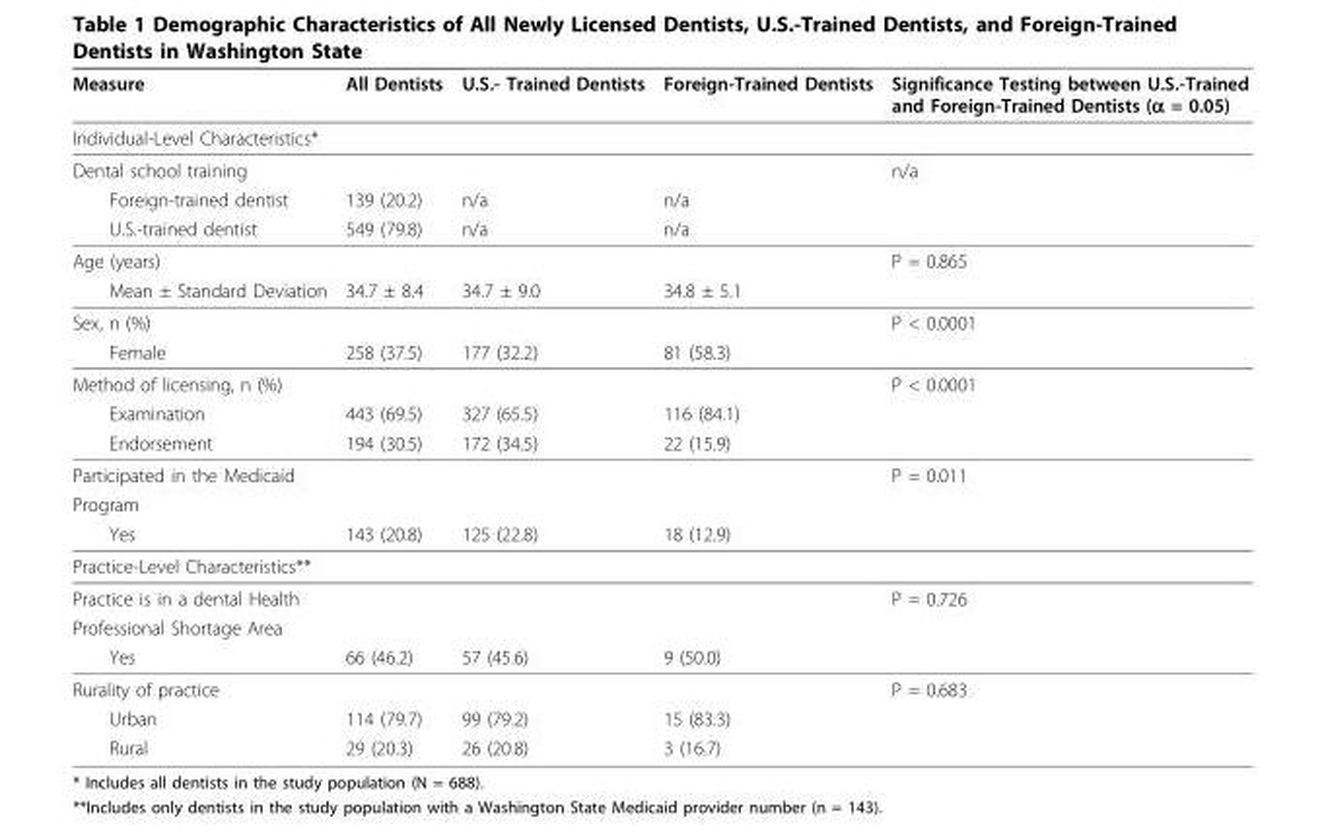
<table><thead><tr><td>Measure</td><td>All Dentists</td><td>U.S.- Trained Dentists</td><td>Foreign-Trained Dentists</td><td>Significance Testing between U.S.-Trained and Foreign-Trained Dentists (α = 0.05)</td></tr></thead><tbody><tr><td colspan="5">Individual-Level Characteristics*</td></tr><tr><td>Dental school training</td><td></td><td></td><td></td><td>n/a</td></tr><tr><td>Foreign-trained dentist</td><td>139 (20.2)</td><td>n/a</td><td>n/a</td><td></td></tr><tr><td>U.S.-trained dentist</td><td>549 (79.8)</td><td>n/a</td><td>n/a</td><td></td></tr><tr><td>Age (years)</td><td></td><td></td><td></td><td>P = 0.865</td></tr><tr><td>Mean ± Standard Deviation</td><td>34.7 ± 8.4</td><td>34.7 ± 9.0</td><td>34.8 ± 5.1</td><td></td></tr><tr><td>Sex, n (%)</td><td></td><td></td><td></td><td>P &lt; 0.0001</td></tr><tr><td>Female</td><td>258 (37.5)</td><td>177 (32.2)</td><td>81 (58.3)</td><td></td></tr><tr><td>Method of licensing, n (%)</td><td></td><td></td><td></td><td>P &lt; 0.0001</td></tr><tr><td>Examination</td><td>443 (69.5)</td><td>327 (65.5)</td><td>116 (84.1)</td><td></td></tr><tr><td>Endorsement</td><td>194 (30.5)</td><td>172 (34.5)</td><td>22 (15.9)</td><td></td></tr><tr><td>Participated in the Medicaid</td><td></td><td></td><td></td><td>P = 0.011</td></tr><tr><td colspan="5">Program</td></tr><tr><td>Yes</td><td>143 (20.8)</td><td>125 (22.8)</td><td>18 (12.9)</td><td></td></tr><tr><td colspan="5">Practice-Level Characteristics**</td></tr><tr><td>Practice is in a dental Health</td><td></td><td></td><td></td><td>P = 0.726</td></tr><tr><td colspan="5">Professional Shortage Area</td></tr><tr><td>Yes</td><td>66 (46.2)</td><td>57 (45.6)</td><td>9 (50.0)</td><td></td></tr><tr><td>Rurality of practice</td><td></td><td></td><td></td><td>P = 0.683</td></tr><tr><td>Urban</td><td>114 (79.7)</td><td>99 (79.2)</td><td>15 (83.3)</td><td></td></tr><tr><td>Rural</td><td>29 (20.3)</td><td>26 (20.8)</td><td>3 (16.7)</td><td></td></tr></tbody></table>